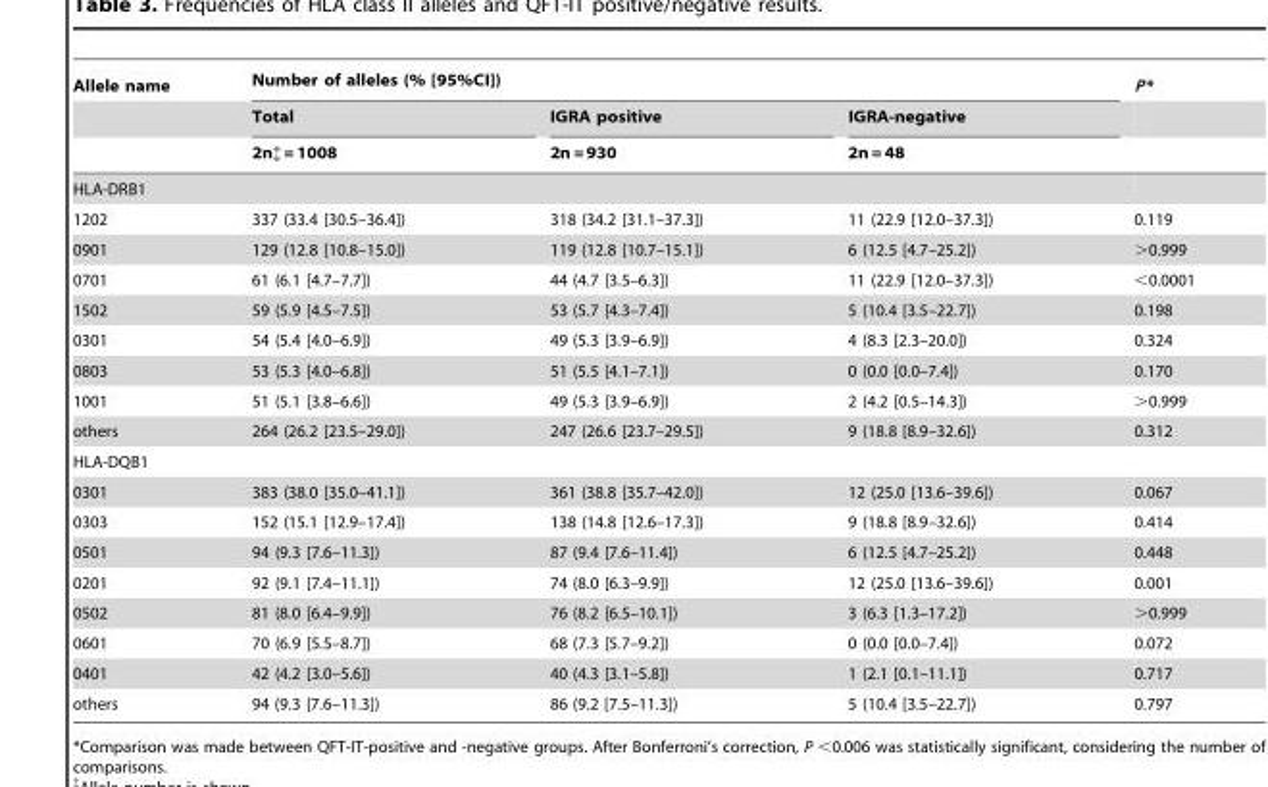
<table><thead><tr><td rowspan="3">Allele name</td><td colspan="3">Number of alleles (% [95%CI])</td><td rowspan="3">P*</td></tr><tr><td rowspan="2">Total 2n‡ = 1008</td><td rowspan="2">IGRA positive 2n = 930</td><td rowspan="2">IGRA-negative 2n = 48</td></tr><tr></tr></thead><tbody><tr><td colspan="5">HLA-DRB1</td></tr><tr><td>1202</td><td>337 (33.4 [30.5–36.4])</td><td>318 (34.2 [31.1–37.3])</td><td>11 (22.9 [12.0–37.3])</td><td>0.119</td></tr><tr><td>0901</td><td>129 (12.8 [10.8–15.0])</td><td>119 (12.8 [10.7–15.1])</td><td>6 (12.5 [4.7–25.2])</td><td>&gt;0.999</td></tr><tr><td>0701</td><td>61 (6.1 [4.7–7.7])</td><td>44 (4.7 [3.5–6.3])</td><td>11 (22.9 [12.0–37.3])</td><td>&lt;0.0001</td></tr><tr><td>1502</td><td>59 (5.9 [4.5–7.5])</td><td>53 (5.7 [4.3–7.4])</td><td>5 (10.4 [3.5–22.7])</td><td>0.198</td></tr><tr><td>0301</td><td>54 (5.4 [4.0–6.9])</td><td>49 (5.3 [3.9–6.9])</td><td>4 (8.3 [2.3–20.0])</td><td>0.324</td></tr><tr><td>0803</td><td>53 (5.3 [4.0–6.8])</td><td>51 (5.5 [4.1–7.1])</td><td>0 (0.0 [0.0–7.4])</td><td>0.170</td></tr><tr><td>1001</td><td>51 (5.1 [3.8–6.6])</td><td>49 (5.3 [3.9–6.9])</td><td>2 (4.2 [0.5–14.3])</td><td>&gt;0.999</td></tr><tr><td>others</td><td>264 (26.2 [23.5–29.0])</td><td>247 (26.6 [23.7–29.5])</td><td>9 (18.8 [8.9–32.6])</td><td>0.312</td></tr><tr><td colspan="5">HLA-DQB1</td></tr><tr><td>0301</td><td>383 (38.0 [35.0–41.1])</td><td>361 (38.8 [35.7–42.0])</td><td>12 (25.0 [13.6–39.6])</td><td>0.067</td></tr><tr><td>0303</td><td>152 (15.1 [12.9–17.4])</td><td>138 (14.8 [12.6–17.3])</td><td>9 (18.8 [8.9–32.6])</td><td>0.414</td></tr><tr><td>0501</td><td>94 (9.3 [7.6–11.3])</td><td>87 (9.4 [7.6–11.4])</td><td>6 (12.5 [4.7–25.2])</td><td>0.448</td></tr><tr><td>0201</td><td>92 (9.1 [7.4–11.1])</td><td>74 (8.0 [6.3–9.9])</td><td>12 (25.0 [13.6–39.6])</td><td>0.001</td></tr><tr><td>0502</td><td>81 (8.0 [6.4–9.9])</td><td>76 (8.2 [6.5–10.1])</td><td>3 (6.3 [1.3–17.2])</td><td>&gt;0.999</td></tr><tr><td>0601</td><td>70 (6.9 [5.5–8.7])</td><td>68 (7.3 [5.7–9.2])</td><td>0 (0.0 [0.0–7.4])</td><td>0.072</td></tr><tr><td>0401</td><td>42 (4.2 [3.0–5.6])</td><td>40 (4.3 [3.1–5.8])</td><td>1 (2.1 [0.1–11.1])</td><td>0.717</td></tr><tr><td>others</td><td>94 (9.3 [7.6–11.3])</td><td>86 (9.2 [7.5–11.3])</td><td>5 (10.4 [3.5–22.7])</td><td>0.797</td></tr></tbody></table>